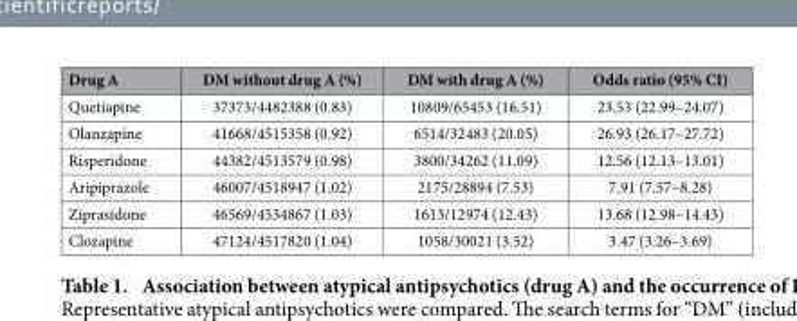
<table><thead><tr><td>Drug A</td><td>DM without drug A (%)</td><td>DM with drug A (%)</td><td>Odds ratio (95% CI)</td></tr></thead><tbody><tr><td>Quetiapine</td><td>37373/4482388 (0.83)</td><td>10809/65453 (16.51)</td><td>23.53 (22.99–24.07)</td></tr><tr><td>Olanzapine</td><td>41668/4515358 (0.92)</td><td>6514/32483 (20.05)</td><td>26.93 (26.17–27.72)</td></tr><tr><td>Risperidone</td><td>44382/4513579 (0.98)</td><td>3800/34262 (11.09)</td><td>12.56 (12.13–13.01)</td></tr><tr><td>Aripiprazole</td><td>46007/4518947 (1.02)</td><td>2175/28894 (7.53)</td><td>7.91 (7.57–8.28)</td></tr><tr><td>Ziprasidone</td><td>46569/4534867 (1.03)</td><td>1613/12974 (12.43)</td><td>13.68 (12.98–14.43)</td></tr><tr><td>Clozapine</td><td>47124/4517820 (1.04)</td><td>1058/30021 (3.52)</td><td>3.47 (3.26–3.69)</td></tr></tbody></table>